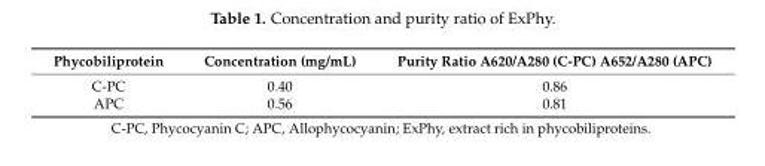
<table><thead><tr><td>Phycobiliprotein</td><td>Concentration (mg/mL)</td><td>Purity Ratio A620/A280 (C-PC) A652/A280 (APC)</td></tr></thead><tbody><tr><td>C-PC</td><td>0.40</td><td>0.86</td></tr><tr><td>APC</td><td>0.56</td><td>0.81</td></tr></tbody></table>